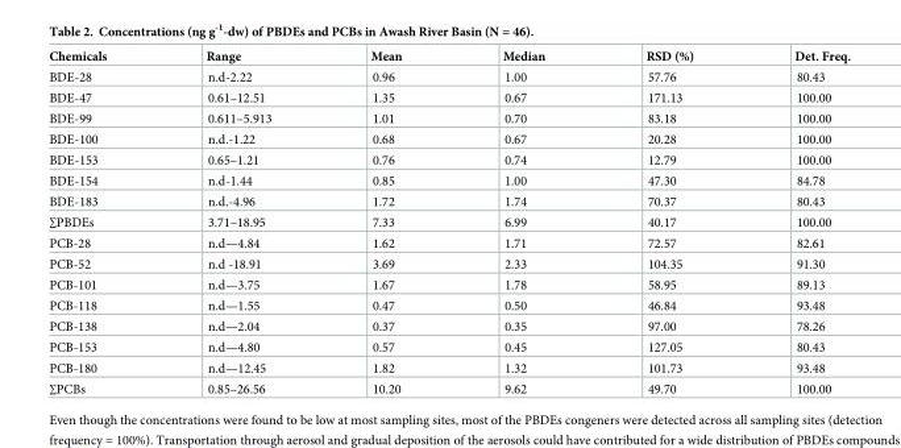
<table><thead><tr><td>Chemicals</td><td>Range</td><td>Mean</td><td>Median</td><td>RSD (%)</td><td>Det. Freq.</td></tr></thead><tbody><tr><td>BDE-28</td><td>n.d-2.22</td><td>0.96</td><td>1.00</td><td>57.76</td><td>80.43</td></tr><tr><td>BDE-47</td><td>0.61–12.51</td><td>1.35</td><td>0.67</td><td>171.13</td><td>100.00</td></tr><tr><td>BDE-99</td><td>0.611–5.913</td><td>1.01</td><td>0.70</td><td>83.18</td><td>100.00</td></tr><tr><td>BDE-100</td><td>n.d.-1.22</td><td>0.68</td><td>0.67</td><td>20.28</td><td>100.00</td></tr><tr><td>BDE-153</td><td>0.65–1.21</td><td>0.76</td><td>0.74</td><td>12.79</td><td>100.00</td></tr><tr><td>BDE-154</td><td>n.d-1.44</td><td>0.85</td><td>1.00</td><td>47.30</td><td>84.78</td></tr><tr><td>BDE-183</td><td>n.d.-4.96</td><td>1.72</td><td>1.74</td><td>70.37</td><td>80.43</td></tr><tr><td>∑PBDEs</td><td>3.71–18.95</td><td>7.33</td><td>6.99</td><td>40.17</td><td>100.00</td></tr><tr><td>PCB-28</td><td>n.d—4.84</td><td>1.62</td><td>1.71</td><td>72.57</td><td>82.61</td></tr><tr><td>PCB-52</td><td>n.d -18.91</td><td>3.69</td><td>2.33</td><td>104.35</td><td>91.30</td></tr><tr><td>PCB-101</td><td>n.d—3.75</td><td>1.67</td><td>1.78</td><td>58.95</td><td>89.13</td></tr><tr><td>PCB-118</td><td>n.d—1.55</td><td>0.47</td><td>0.50</td><td>46.84</td><td>93.48</td></tr><tr><td>PCB-138</td><td>n.d—2.04</td><td>0.37</td><td>0.35</td><td>97.00</td><td>78.26</td></tr><tr><td>PCB-153</td><td>n.d—4.80</td><td>0.57</td><td>0.45</td><td>127.05</td><td>80.43</td></tr><tr><td>PCB-180</td><td>n.d—12.45</td><td>1.82</td><td>1.32</td><td>101.73</td><td>93.48</td></tr><tr><td>∑PCBs</td><td>0.85–26.56</td><td>10.20</td><td>9.62</td><td>49.70</td><td>100.00</td></tr></tbody></table>